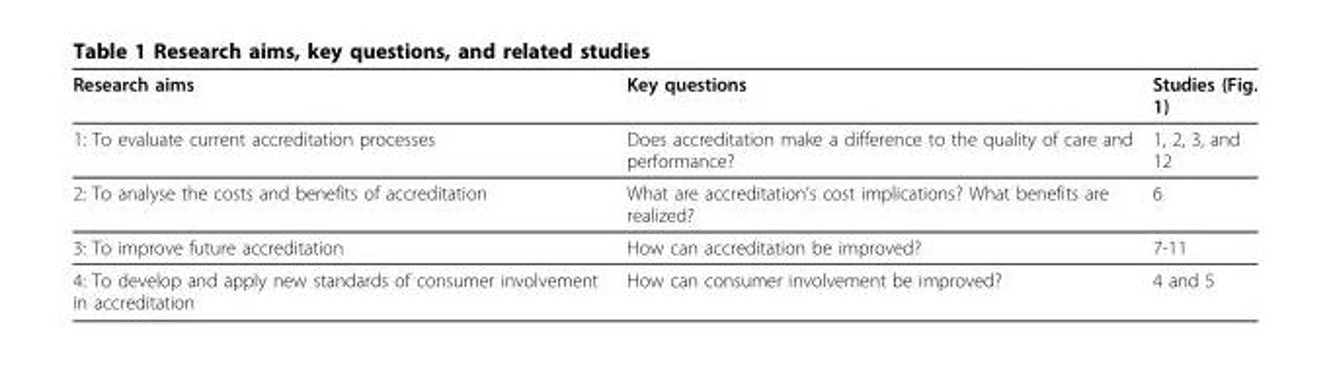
<table><thead><tr><td>Research aims</td><td>Key questions</td><td>Studies (Fig. 1)</td></tr></thead><tbody><tr><td>1: To evaluate current accreditation processes</td><td>Does accreditation make a difference to the quality of care and performance?</td><td>1, 2, 3, and 12</td></tr><tr><td>2: To analyse the costs and benefits of accreditation</td><td>What are accreditation’s cost implications? What benefits are realized?</td><td>6</td></tr><tr><td>3: To improve future accreditation</td><td>How can accreditation be improved?</td><td>7-11</td></tr><tr><td>4: To develop and apply new standards of consumer involvement in accreditation</td><td>How can consumer involvement be improved?</td><td>4 and 5</td></tr></tbody></table>